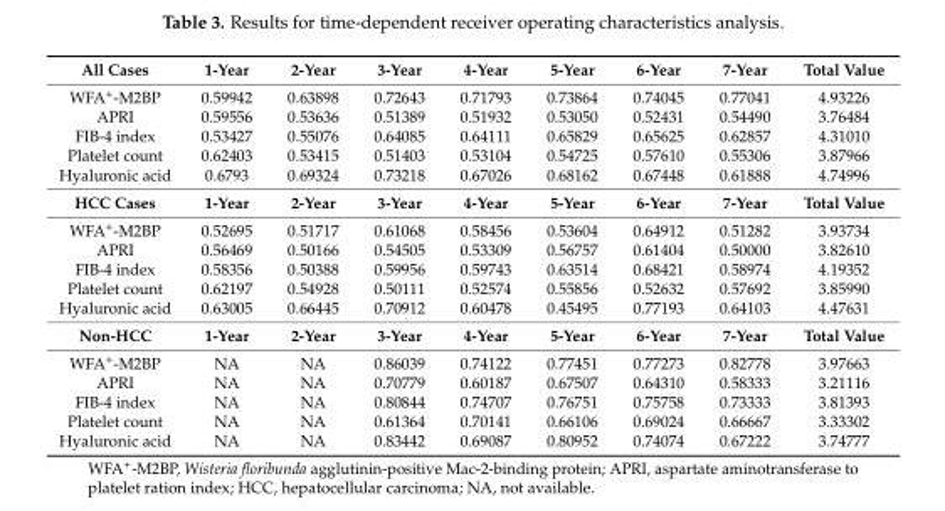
<table><tbody><tr><td>All Cases</td><td>1-Year</td><td>2-Year</td><td>3-Year</td><td>4-Year</td><td>5-Year</td><td>6-Year</td><td>7-Year</td><td>Total Value</td></tr><tr><td>WFA<sup>+</sup>-M2BP</td><td>0.59942</td><td>0.63898</td><td>0.72643</td><td>0.71793</td><td>0.73864</td><td>0.74045</td><td>0.77041</td><td>4.93226</td></tr><tr><td>APRI</td><td>0.59556</td><td>0.53636</td><td>0.51389</td><td>0.51932</td><td>0.53050</td><td>0.52431</td><td>0.54490</td><td>3.76484</td></tr><tr><td>FIB-4 index</td><td>0.53427</td><td>0.55076</td><td>0.64085</td><td>0.64111</td><td>0.65829</td><td>0.65625</td><td>0.62857</td><td>4.31010</td></tr><tr><td>Platelet count</td><td>0.62403</td><td>0.53415</td><td>0.51403</td><td>0.53104</td><td>0.54725</td><td>0.57610</td><td>0.55306</td><td>3.87966</td></tr><tr><td>Hyaluronic acid</td><td>0.6793</td><td>0.69324</td><td>0.73218</td><td>0.67026</td><td>0.68162</td><td>0.67448</td><td>0.61888</td><td>4.74996</td></tr><tr><td>HCC Cases</td><td>1-Year</td><td>2-Year</td><td>3-Year</td><td>4-Year</td><td>5-Year</td><td>6-Year</td><td>7-Year</td><td>Total Value</td></tr><tr><td>WFA<sup>+</sup>-M2BP</td><td>0.52695</td><td>0.51717</td><td>0.61068</td><td>0.58456</td><td>0.53604</td><td>0.64912</td><td>0.51282</td><td>3.93734</td></tr><tr><td>APRI</td><td>0.56469</td><td>0.50166</td><td>0.54505</td><td>0.53309</td><td>0.56757</td><td>0.61404</td><td>0.50000</td><td>3.82610</td></tr><tr><td>FIB-4 index</td><td>0.58356</td><td>0.50388</td><td>0.59956</td><td>0.59743</td><td>0.63514</td><td>0.68421</td><td>0.58974</td><td>4.19352</td></tr><tr><td>Platelet count</td><td>0.62197</td><td>0.54928</td><td>0.50111</td><td>0.52574</td><td>0.55856</td><td>0.52632</td><td>0.57692</td><td>3.85990</td></tr><tr><td>Hyaluronic acid</td><td>0.63005</td><td>0.66445</td><td>0.70912</td><td>0.60478</td><td>0.45495</td><td>0.77193</td><td>0.64103</td><td>4.47631</td></tr><tr><td>Non-HCC</td><td>1-Year</td><td>2-Year</td><td>3-Year</td><td>4-Year</td><td>5-Year</td><td>6-Year</td><td>7-Year</td><td>Total Value</td></tr><tr><td>WFA<sup>+</sup>-M2BP</td><td>NA</td><td>NA</td><td>0.86039</td><td>0.74122</td><td>0.77451</td><td>0.77273</td><td>0.82778</td><td>3.97663</td></tr><tr><td>APRI</td><td>NA</td><td>NA</td><td>0.70779</td><td>0.60187</td><td>0.67507</td><td>0.64310</td><td>0.58333</td><td>3.21116</td></tr><tr><td>FIB-4 index</td><td>NA</td><td>NA</td><td>0.80844</td><td>0.74707</td><td>0.76751</td><td>0.75758</td><td>0.73333</td><td>3.81393</td></tr><tr><td>Platelet count</td><td>NA</td><td>NA</td><td>0.61364</td><td>0.70141</td><td>0.66106</td><td>0.69024</td><td>0.66667</td><td>3.33302</td></tr><tr><td>Hyaluronic acid</td><td>NA</td><td>NA</td><td>0.83442</td><td>0.69087</td><td>0.80952</td><td>0.74074</td><td>0.67222</td><td>3.74777</td></tr></tbody></table>